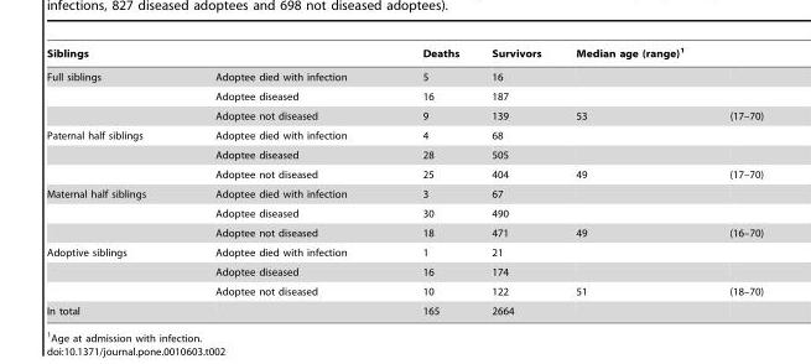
<table><thead><tr><td rowspan="2">Siblings Full siblings</td><td rowspan="2">Adoptee died with infection</td><td rowspan="2">Deaths 5</td><td rowspan="2">Survivors 16</td><td colspan="2">Median age (range)<sup>1</sup></td></tr><tr><td></td><td></td></tr></thead><tbody><tr><td></td><td>Adoptee diseased</td><td>16</td><td>187</td><td></td><td></td></tr><tr><td></td><td>Adoptee not diseased</td><td>9</td><td>139</td><td>53</td><td>(17–70)</td></tr><tr><td rowspan="3">Paternal half siblings</td><td>Adoptee died with infection</td><td>4</td><td>68</td><td></td><td></td></tr><tr><td>Adoptee diseased</td><td>28</td><td>505</td><td></td><td></td></tr><tr><td>Adoptee not diseased</td><td>25</td><td>404</td><td>49</td><td>(17–70)</td></tr><tr><td rowspan="3">Maternal half siblings</td><td>Adoptee died with infection</td><td>3</td><td>67</td><td></td><td></td></tr><tr><td>Adoptee diseased</td><td>30</td><td>490</td><td></td><td></td></tr><tr><td>Adoptee not diseased</td><td>18</td><td>471</td><td>49</td><td>(16–70)</td></tr><tr><td rowspan="3">Adoptive siblings</td><td>Adoptee died with infection</td><td>1</td><td>21</td><td></td><td></td></tr><tr><td>Adoptee diseased</td><td>16</td><td>174</td><td></td><td></td></tr><tr><td>Adoptee not diseased</td><td>10</td><td>122</td><td>51</td><td>(18–70)</td></tr><tr><td>In total</td><td></td><td>165</td><td>2664</td><td></td><td></td></tr></tbody></table>